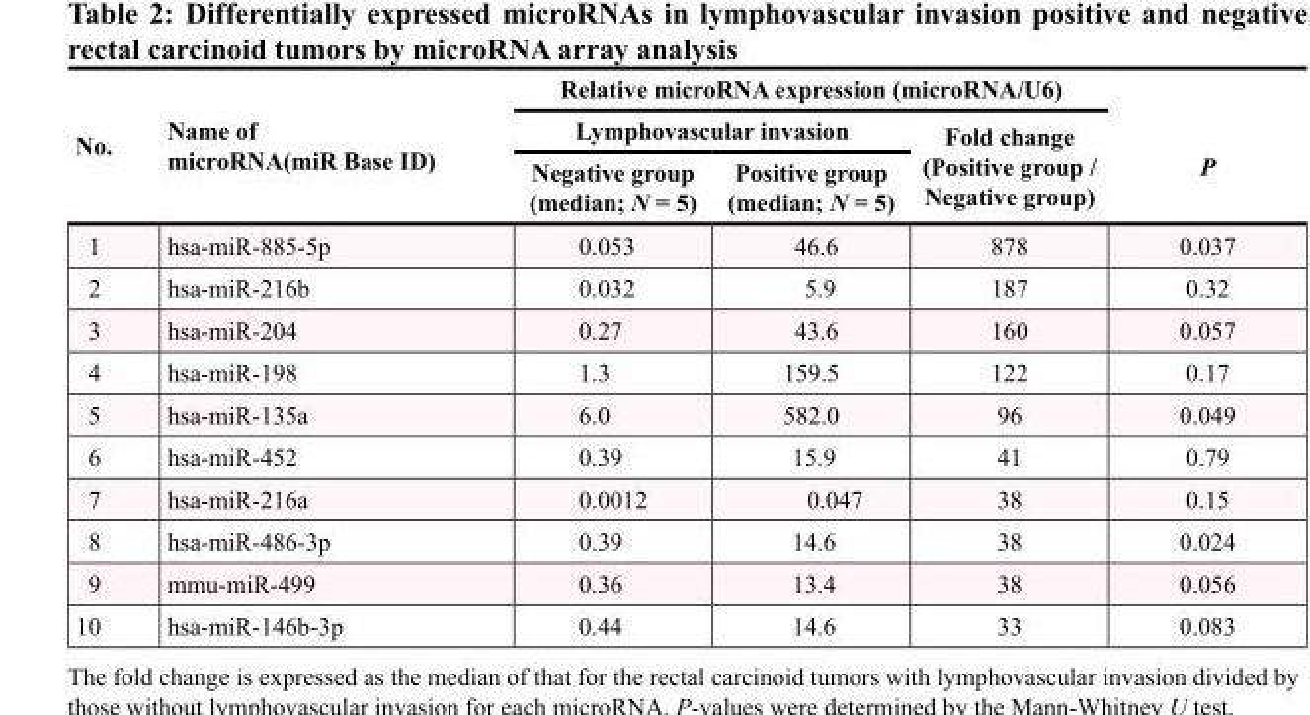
<table><thead><tr><td rowspan="3">No.</td><td rowspan="3">Name of microRNA(miR Base ID)</td><td colspan="3">Relative microRNA expression (microRNA/U6)</td><td rowspan="3">P</td></tr><tr><td colspan="2">Lymphovascular invasion</td><td rowspan="2">Fold change (Positive group / Negative group)</td></tr><tr><td>Negative group (median; N = 5)</td><td>Positive group (median; N = 5)</td></tr></thead><tbody><tr><td>1</td><td>hsa-miR-885-5p</td><td>0.053</td><td>46.6</td><td>878</td><td>0.037</td></tr><tr><td>2</td><td>hsa-miR-216b</td><td>0.032</td><td>5.9</td><td>187</td><td>0.32</td></tr><tr><td>3</td><td>hsa-miR-204</td><td>0.27</td><td>43.6</td><td>160</td><td>0.057</td></tr><tr><td>4</td><td>hsa-miR-198</td><td>1.3</td><td>159.5</td><td>122</td><td>0.17</td></tr><tr><td>5</td><td>hsa-miR-135a</td><td>6.0</td><td>582.0</td><td>96</td><td>0.049</td></tr><tr><td>6</td><td>hsa-miR-452</td><td>0.39</td><td>15.9</td><td>41</td><td>0.79</td></tr><tr><td>7</td><td>hsa-miR-216a</td><td>0.0012</td><td>0.047</td><td>38</td><td>0.15</td></tr><tr><td>8</td><td>hsa-miR-486-3p</td><td>0.39</td><td>14.6</td><td>38</td><td>0.024</td></tr><tr><td>9</td><td>mmu-miR-499</td><td>0.36</td><td>13.4</td><td>38</td><td>0.056</td></tr><tr><td>10</td><td>hsa-miR-146b-3p</td><td>0.44</td><td>14.6</td><td>33</td><td>0.083</td></tr></tbody></table>